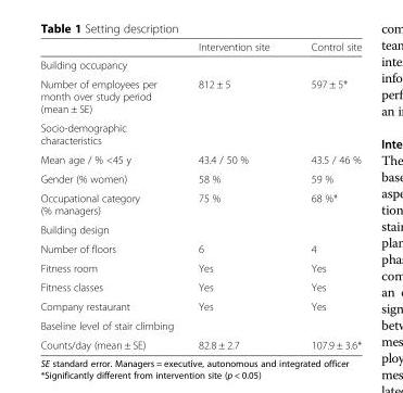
<table><thead><tr><td></td><td>Intervention site</td><td>Control site</td></tr></thead><tbody><tr><td colspan="3">Building occupancy</td></tr><tr><td>Number of employees per month over study period (mean ± SE)</td><td>812 ± 5</td><td>597 ± 5*</td></tr><tr><td colspan="3">Socio-demographic characteristics</td></tr><tr><td>Mean age / % &lt;45 y</td><td>43.4 / 50 %</td><td>43.5 / 46 %</td></tr><tr><td>Gender (% women)</td><td>58 %</td><td>59 %</td></tr><tr><td>Occupational category (% managers)</td><td>75 %</td><td>68 %*</td></tr><tr><td colspan="3">Building design</td></tr><tr><td>Number of floors</td><td>6</td><td>4</td></tr><tr><td>Fitness room</td><td>Yes</td><td>Yes</td></tr><tr><td>Fitness classes</td><td>Yes</td><td>Yes</td></tr><tr><td>Company restaurant</td><td>Yes</td><td>Yes</td></tr><tr><td colspan="3">Baseline level of stair climbing</td></tr><tr><td>Counts/day (mean ± SE)</td><td>82.8 ± 2.7</td><td>107.9 ± 3.6*</td></tr></tbody></table>